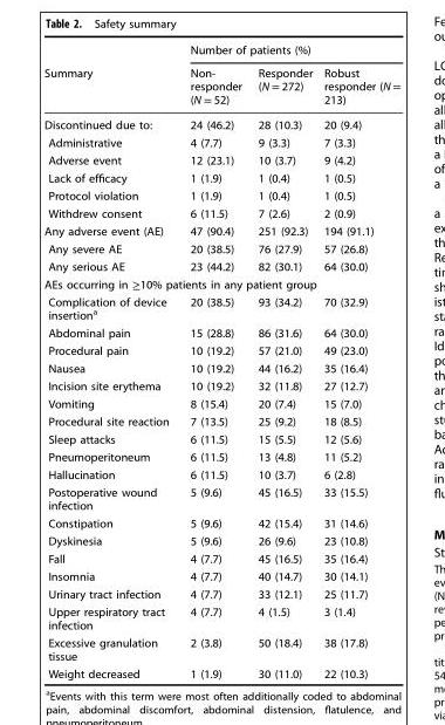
<table><thead><tr><td rowspan="2">Summary</td><td colspan="3">Number of patients (%)</td></tr><tr><td>Non- responder (N = 52)</td><td>Responder (N = 272)</td><td>Robust responder (N = 213)</td></tr></thead><tbody><tr><td>Discontinued due to:</td><td>24 (46.2)</td><td>28 (10.3)</td><td>20 (9.4)</td></tr><tr><td>Administrative</td><td>4 (7.7)</td><td>9 (3.3)</td><td>7 (3.3)</td></tr><tr><td>Adverse event</td><td>12 (23.1)</td><td>10 (3.7)</td><td>9 (4.2)</td></tr><tr><td>Lack of efficacy</td><td>1 (1.9)</td><td>1 (0.4)</td><td>1 (0.5)</td></tr><tr><td>Protocol violation</td><td>1 (1.9)</td><td>1 (0.4)</td><td>1 (0.5)</td></tr><tr><td>Withdrew consent</td><td>6 (11.5)</td><td>7 (2.6)</td><td>2 (0.9)</td></tr><tr><td>Any adverse event (AE)</td><td>47 (90.4)</td><td>251 (92.3)</td><td>194 (91.1)</td></tr><tr><td>Any severe AE</td><td>20 (38.5)</td><td>76 (27.9)</td><td>57 (26.8)</td></tr><tr><td>Any serious AE</td><td>23 (44.2)</td><td>82 (30.1)</td><td>64 (30.0)</td></tr><tr><td colspan="4">AEs occurring in ≥10% patients in any patient group</td></tr><tr><td>Complication of device insertion<sup>a</sup></td><td>20 (38.5)</td><td>93 (34.2)</td><td>70 (32.9)</td></tr><tr><td>Abdominal pain</td><td>15 (28.8)</td><td>86 (31.6)</td><td>64 (30.0)</td></tr><tr><td>Procedural pain</td><td>10 (19.2)</td><td>57 (21.0)</td><td>49 (23.0)</td></tr><tr><td>Nausea</td><td>10 (19.2)</td><td>44 (16.2)</td><td>35 (16.4)</td></tr><tr><td>Incision site erythema</td><td>10 (19.2)</td><td>32 (11.8)</td><td>27 (12.7)</td></tr><tr><td>Vomiting</td><td>8 (15.4)</td><td>20 (7.4)</td><td>15 (7.0)</td></tr><tr><td>Procedural site reaction</td><td>7 (13.5)</td><td>25 (9.2)</td><td>18 (8.5)</td></tr><tr><td>Sleep attacks</td><td>6 (11.5)</td><td>15 (5.5)</td><td>12 (5.6)</td></tr><tr><td>Pneumoperitoneum</td><td>6 (11.5)</td><td>13 (4.8)</td><td>11 (5.2)</td></tr><tr><td>Hallucination</td><td>6 (11.5)</td><td>10 (3.7)</td><td>6 (2.8)</td></tr><tr><td>Postoperative wound infection</td><td>5 (9.6)</td><td>45 (16.5)</td><td>33 (15.5)</td></tr><tr><td>Constipation</td><td>5 (9.6)</td><td>42 (15.4)</td><td>31 (14.6)</td></tr><tr><td>Dyskinesia</td><td>5 (9.6)</td><td>26 (9.6)</td><td>23 (10.8)</td></tr><tr><td>Fall</td><td>4 (7.7)</td><td>45 (16.5)</td><td>35 (16.4)</td></tr><tr><td>Insomnia</td><td>4 (7.7)</td><td>40 (14.7)</td><td>30 (14.1)</td></tr><tr><td>Urinary tract infection</td><td>4 (7.7)</td><td>33 (12.1)</td><td>25 (11.7)</td></tr><tr><td>Upper respiratory tract infection</td><td>4 (7.7)</td><td>4 (1.5)</td><td>3 (1.4)</td></tr><tr><td>Excessive granulation tissue</td><td>2 (3.8)</td><td>50 (18.4)</td><td>38 (17.8)</td></tr><tr><td>Weight decreased</td><td>1 (1.9)</td><td>30 (11.0)</td><td>22 (10.3)</td></tr></tbody></table>